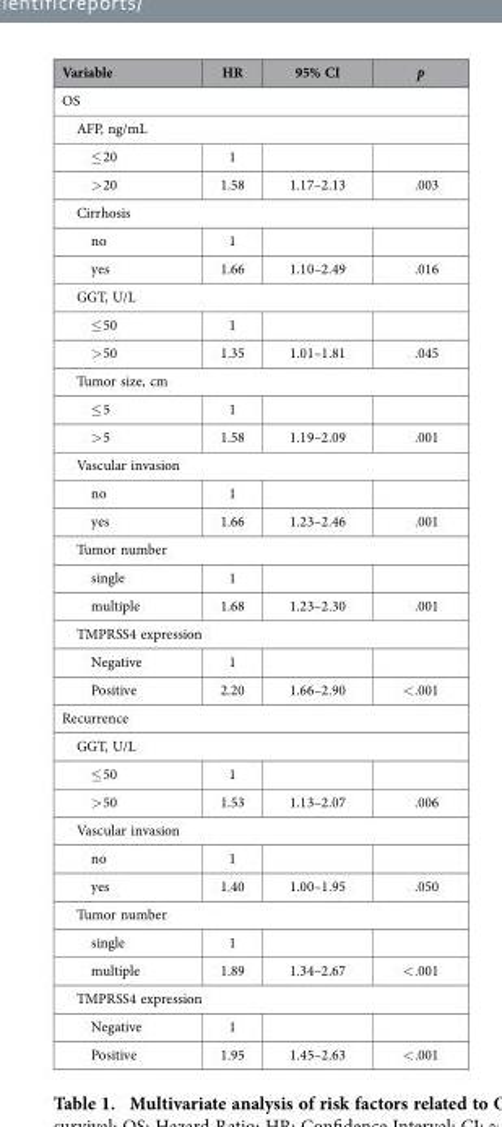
<table><thead><tr><td>Variable</td><td>HR</td><td>95% CI</td><td>p</td></tr></thead><tbody><tr><td colspan="4">OS</td></tr><tr><td colspan="4">AFP, ng/mL</td></tr><tr><td>≤ 20</td><td>1</td><td></td><td></td></tr><tr><td>&gt; 20</td><td>1.58</td><td>1.17–2.13</td><td>.003</td></tr><tr><td colspan="4">Cirrhosis</td></tr><tr><td>no</td><td>1</td><td></td><td></td></tr><tr><td>yes</td><td>1.66</td><td>1.10–2.49</td><td>.016</td></tr><tr><td colspan="4">GGT, U/L</td></tr><tr><td>≤ 50</td><td>1</td><td></td><td></td></tr><tr><td>&gt; 50</td><td>1.35</td><td>1.01–1.81</td><td>.045</td></tr><tr><td colspan="4">Tumor size, cm</td></tr><tr><td>≤ 5</td><td>1</td><td></td><td></td></tr><tr><td>&gt; 5</td><td>1.58</td><td>1.19–2.09</td><td>.001</td></tr><tr><td colspan="4">Vascular invasion</td></tr><tr><td>no</td><td>1</td><td></td><td></td></tr><tr><td>yes</td><td>1.66</td><td>1.23–2.46</td><td>.001</td></tr><tr><td colspan="4">Tumor number</td></tr><tr><td>single</td><td>1</td><td></td><td></td></tr><tr><td>multiple</td><td>1.68</td><td>1.23–2.30</td><td>.001</td></tr><tr><td colspan="4">TMPRSS4 expression</td></tr><tr><td>Negative</td><td>1</td><td></td><td></td></tr><tr><td>Positive</td><td>2.20</td><td>1.66–2.90</td><td>&lt; .001</td></tr><tr><td colspan="4">Recurrence</td></tr><tr><td colspan="4">GGT, U/L</td></tr><tr><td>≤ 50</td><td>1</td><td></td><td></td></tr><tr><td>&gt; 50</td><td>1.53</td><td>1.13–2.07</td><td>.006</td></tr><tr><td colspan="4">Vascular invasion</td></tr><tr><td>no</td><td>1</td><td></td><td></td></tr><tr><td>yes</td><td>1.40</td><td>1.00–1.95</td><td>.050</td></tr><tr><td colspan="4">Tumor number</td></tr><tr><td>single</td><td>1</td><td></td><td></td></tr><tr><td>multiple</td><td>1.89</td><td>1.34–2.67</td><td>&lt; .001</td></tr><tr><td colspan="4">TMPRSS4 expression</td></tr><tr><td>Negative</td><td>1</td><td></td><td></td></tr><tr><td>Positive</td><td>1.95</td><td>1.45–2.63</td><td>&lt; .001</td></tr></tbody></table>